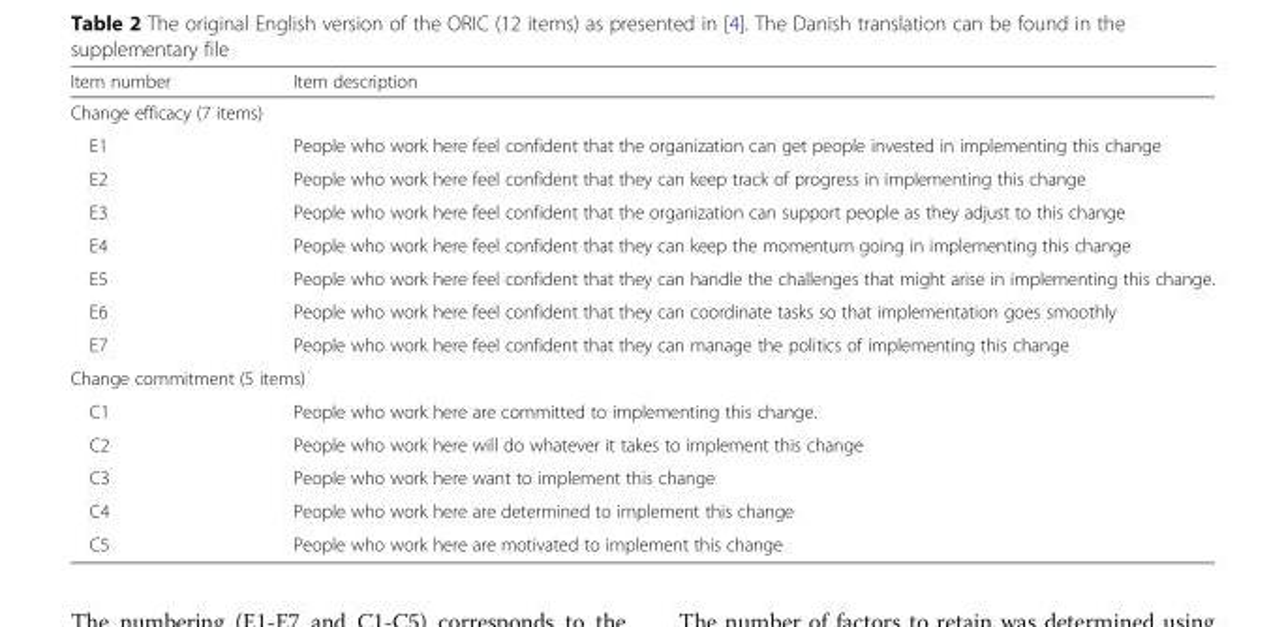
<table><thead><tr><td>Item number</td><td>Item description</td></tr></thead><tbody><tr><td colspan="2">Change efficacy (7 items)</td></tr><tr><td>E1</td><td>People who work here feel confident that the organization can get people invested in implementing this change</td></tr><tr><td>E2</td><td>People who work here feel confident that they can keep track of progress in implementing this change</td></tr><tr><td>E3</td><td>People who work here feel confident that the organization can support people as they adjust to this change</td></tr><tr><td>E4</td><td>People who work here feel confident that they can keep the momentum going in implementing this change</td></tr><tr><td>E5</td><td>People who work here feel confident that they can handle the challenges that might arise in implementing this change.</td></tr><tr><td>E6</td><td>People who work here feel confident that they can coordinate tasks so that implementation goes smoothly</td></tr><tr><td>E7</td><td>People who work here feel confident that they can manage the politics of implementing this change</td></tr><tr><td colspan="2">Change commitment (5 items)</td></tr><tr><td>C1</td><td>People who work here are committed to implementing this change.</td></tr><tr><td>C2</td><td>People who work here will do whatever it takes to implement this change</td></tr><tr><td>C3</td><td>People who work here want to implement this change</td></tr><tr><td>C4</td><td>People who work here are determined to implement this change</td></tr><tr><td>C5</td><td>People who work here are motivated to implement this change</td></tr></tbody></table>